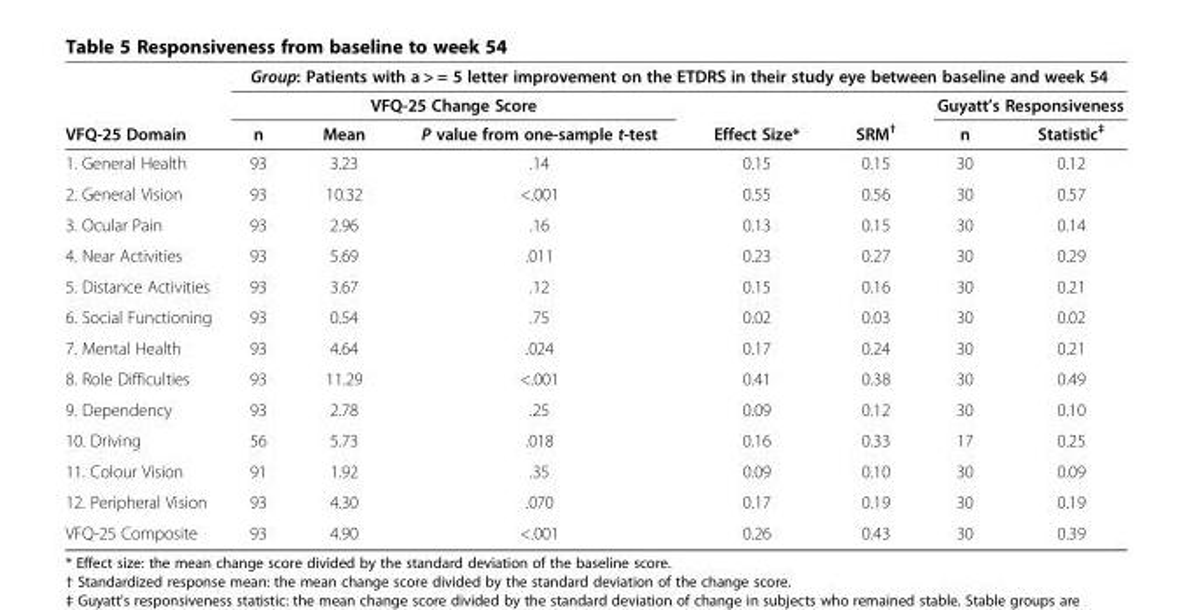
<table><thead><tr><td rowspan="3">VFQ-25 Domain</td><td colspan="7">Group: Patients with a &gt; = 5 letter improvement on the ETDRS in their study eye between baseline and week 54</td></tr><tr><td colspan="3">VFQ-25 Change Score</td><td rowspan="2">Effect Size*</td><td rowspan="2">SRM<sup>†</sup></td><td colspan="2">Guyatt’s Responsiveness</td></tr><tr><td>n</td><td>Mean</td><td>P value from one-sample t-test</td><td>n</td><td>Statistic<sup>‡</sup></td></tr></thead><tbody><tr><td>1. General Health</td><td>93</td><td>3.23</td><td>.14</td><td>0.15</td><td>0.15</td><td>30</td><td>0.12</td></tr><tr><td>2. General Vision</td><td>93</td><td>10.32</td><td>&lt;.001</td><td>0.55</td><td>0.56</td><td>30</td><td>0.57</td></tr><tr><td>3. Ocular Pain</td><td>93</td><td>2.96</td><td>.16</td><td>0.13</td><td>0.15</td><td>30</td><td>0.14</td></tr><tr><td>4. Near Activities</td><td>93</td><td>5.69</td><td>.011</td><td>0.23</td><td>0.27</td><td>30</td><td>0.29</td></tr><tr><td>5. Distance Activities</td><td>93</td><td>3.67</td><td>.12</td><td>0.15</td><td>0.16</td><td>30</td><td>0.21</td></tr><tr><td>6. Social Functioning</td><td>93</td><td>0.54</td><td>.75</td><td>0.02</td><td>0.03</td><td>30</td><td>0.02</td></tr><tr><td>7. Mental Health</td><td>93</td><td>4.64</td><td>.024</td><td>0.17</td><td>0.24</td><td>30</td><td>0.21</td></tr><tr><td>8. Role Difficulties</td><td>93</td><td>11.29</td><td>&lt;.001</td><td>0.41</td><td>0.38</td><td>30</td><td>0.49</td></tr><tr><td>9. Dependency</td><td>93</td><td>2.78</td><td>.25</td><td>0.09</td><td>0.12</td><td>30</td><td>0.10</td></tr><tr><td>10. Driving</td><td>56</td><td>5.73</td><td>.018</td><td>0.16</td><td>0.33</td><td>17</td><td>0.25</td></tr><tr><td>11. Colour Vision</td><td>91</td><td>1.92</td><td>.35</td><td>0.09</td><td>0.10</td><td>30</td><td>0.09</td></tr><tr><td>12. Peripheral Vision</td><td>93</td><td>4.30</td><td>.070</td><td>0.17</td><td>0.19</td><td>30</td><td>0.19</td></tr><tr><td>VFQ-25 Composite</td><td>93</td><td>4.90</td><td>&lt;.001</td><td>0.26</td><td>0.43</td><td>30</td><td>0.39</td></tr></tbody></table>